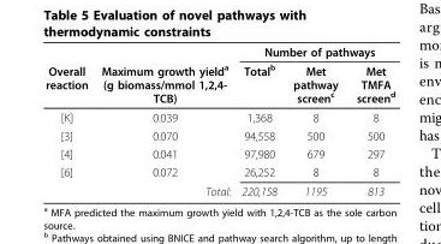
<table><thead><tr><td rowspan="2">Overall reaction</td><td rowspan="2">Maximum growth yield<sup>a</sup> (g biomass/mmol 1,2,4- TCB)</td><td colspan="3">Number of pathways</td></tr><tr><td>Total<sup>b</sup></td><td>Met pathway screen<sup>c</sup></td><td>Met TMFA screen<sup>d</sup></td></tr></thead><tbody><tr><td>[K]</td><td>0.039</td><td>1,368</td><td>8</td><td>8</td></tr><tr><td>[3]</td><td>0.070</td><td>94,558</td><td>500</td><td>500</td></tr><tr><td>[4]</td><td>0.041</td><td>97,980</td><td>679</td><td>297</td></tr><tr><td>[6]</td><td>0.072</td><td>26,252</td><td>8</td><td>8</td></tr><tr><td colspan="2">Total:</td><td>220,158</td><td>1195</td><td>813</td></tr></tbody></table>